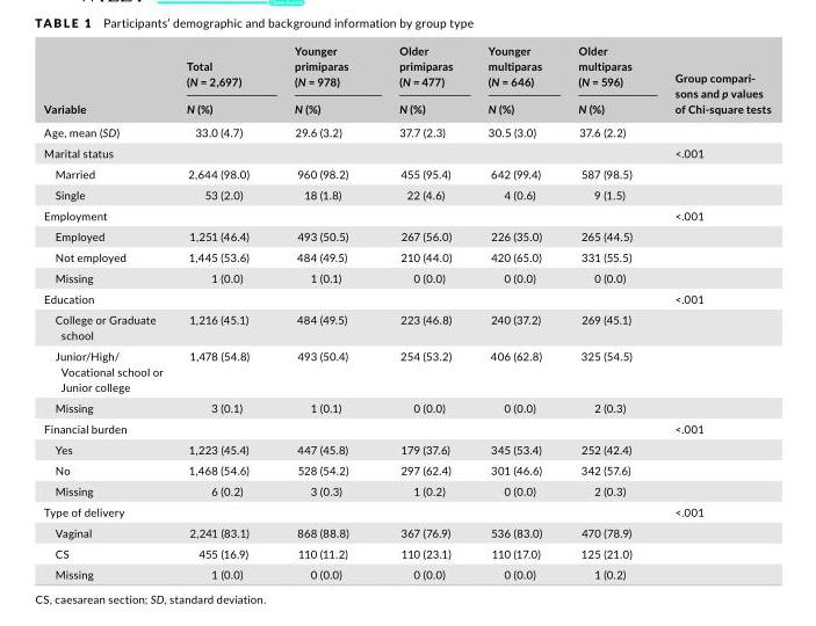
<table><thead><tr><td rowspan="2">Variable</td><td rowspan="2">Total (N = 2,697) N (%)</td><td rowspan="2">Younger primiparas (N = 978) N (%)</td><td rowspan="2">Older primiparas (N = 477) N (%)</td><td rowspan="2">Younger multiparas (N = 646) N (%)</td><td rowspan="2">Older multiparas (N = 596) N (%)</td><td rowspan="2">Group compari- sons and p values of Chi- square tests</td></tr><tr></tr></thead><tbody><tr><td>Age, mean (SD)</td><td>33.0 (4.7)</td><td>29.6 (3.2)</td><td>37.7 (2.3)</td><td>30.5 (3.0)</td><td>37.6 (2.2)</td><td></td></tr><tr><td>Marital status</td><td></td><td></td><td></td><td></td><td></td><td>&lt;.001</td></tr><tr><td>Married</td><td>2,644 (98.0)</td><td>960 (98.2)</td><td>455 (95.4)</td><td>642 (99.4)</td><td>587 (98.5)</td><td></td></tr><tr><td>Single</td><td>53 (2.0)</td><td>18 (1.8)</td><td>22 (4.6)</td><td>4 (0.6)</td><td>9 (1.5)</td><td></td></tr><tr><td>Employment</td><td></td><td></td><td></td><td></td><td></td><td>&lt;.001</td></tr><tr><td>Employed</td><td>1,251 (46.4)</td><td>493 (50.5)</td><td>267 (56.0)</td><td>226 (35.0)</td><td>265 (44.5)</td><td></td></tr><tr><td>Not employed</td><td>1,445 (53.6)</td><td>484 (49.5)</td><td>210 (44.0)</td><td>420 (65.0)</td><td>331 (55.5)</td><td></td></tr><tr><td>Missing</td><td>1 (0.0)</td><td>1 (0.1)</td><td>0 (0.0)</td><td>0 (0.0)</td><td>0 (0.0)</td><td></td></tr><tr><td>Education</td><td></td><td></td><td></td><td></td><td></td><td>&lt;.001</td></tr><tr><td>College or Graduate school</td><td>1,216 (45.1)</td><td>484 (49.5)</td><td>223 (46.8)</td><td>240 (37.2)</td><td>269 (45.1)</td><td></td></tr><tr><td>Junior/High/ Vocational school or Junior college</td><td>1,478 (54.8)</td><td>493 (50.4)</td><td>254 (53.2)</td><td>406 (62.8)</td><td>325 (54.5)</td><td></td></tr><tr><td>Missing</td><td>3 (0.1)</td><td>1 (0.1)</td><td>0 (0.0)</td><td>0 (0.0)</td><td>2 (0.3)</td><td></td></tr><tr><td>Financial burden</td><td></td><td></td><td></td><td></td><td></td><td>&lt;.001</td></tr><tr><td>Yes</td><td>1,223 (45.4)</td><td>447 (45.8)</td><td>179 (37.6)</td><td>345 (53.4)</td><td>252 (42.4)</td><td></td></tr><tr><td>No</td><td>1,468 (54.6)</td><td>528 (54.2)</td><td>297 (62.4)</td><td>301 (46.6)</td><td>342 (57.6)</td><td></td></tr><tr><td>Missing</td><td>6 (0.2)</td><td>3 (0.3)</td><td>1 (0.2)</td><td>0 (0.0)</td><td>2 (0.3)</td><td></td></tr><tr><td>Type of delivery</td><td></td><td></td><td></td><td></td><td></td><td>&lt;.001</td></tr><tr><td>Vaginal</td><td>2,241 (83.1)</td><td>868 (88.8)</td><td>367 (76.9)</td><td>536 (83.0)</td><td>470 (78.9)</td><td></td></tr><tr><td>CS</td><td>455 (16.9)</td><td>110 (11.2)</td><td>110 (23.1)</td><td>110 (17.0)</td><td>125 (21.0)</td><td></td></tr><tr><td>Missing</td><td>1 (0.0)</td><td>0 (0.0)</td><td>0 (0.0)</td><td>0 (0.0)</td><td>1 (0.2)</td><td></td></tr></tbody></table>